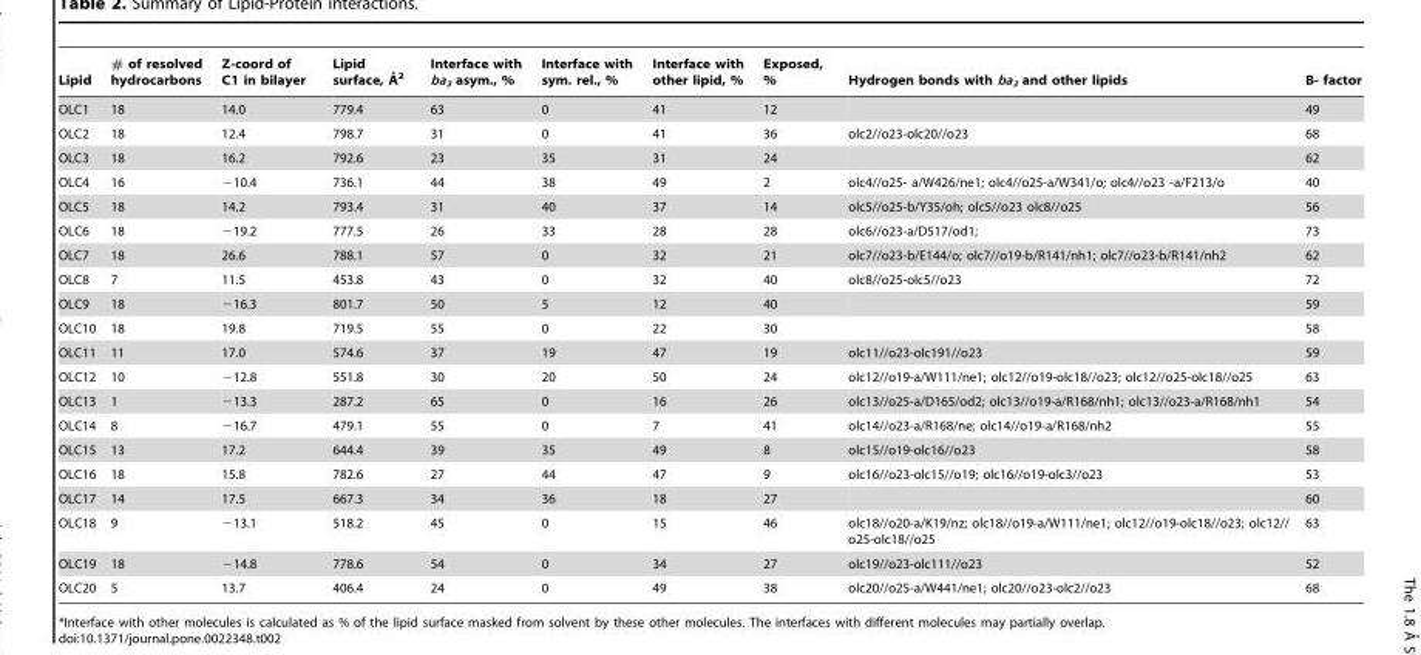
<table><thead><tr><td>Lipid</td><td># of resolved hydrocarbons</td><td>Z-coord of C1 in bilayer</td><td>Lipid surface, A˚ 2</td><td>Interface with ba<sub>3</sub> asym., %</td><td>Interface with sym. rel., %</td><td>Interface with other lipid, %</td><td>Exposed, %</td><td>Hydrogen bonds with ba<sub>3</sub> and other lipids</td><td>B- factor</td></tr></thead><tbody><tr><td>OLC1</td><td>18</td><td>14.0</td><td>779.4</td><td>63</td><td>0</td><td>41</td><td>12</td><td></td><td>49</td></tr><tr><td>OLC2</td><td>18</td><td>12.4</td><td>798.7</td><td>31</td><td>0</td><td>41</td><td>36</td><td>olc2//o23-olc20//o23</td><td>68</td></tr><tr><td>OLC3</td><td>18</td><td>16.2</td><td>792.6</td><td>23</td><td>35</td><td>31</td><td>24</td><td></td><td>62</td></tr><tr><td>OLC4</td><td>16</td><td>−10.4</td><td>736.1</td><td>44</td><td>38</td><td>49</td><td>2</td><td>olc4//o25- a/W426/ne1; olc4//o25-a/W341/o; olc4//o23 -a/F213/o</td><td>40</td></tr><tr><td>OLC5</td><td>18</td><td>14.2</td><td>793.4</td><td>31</td><td>40</td><td>37</td><td>14</td><td>olc5//o25-b/Y35/oh; olc5//o23 olc8//o25</td><td>56</td></tr><tr><td>OLC6</td><td>18</td><td>−19.2</td><td>777.5</td><td>26</td><td>33</td><td>28</td><td>28</td><td>olc6//o23-a/D517/od1;</td><td>73</td></tr><tr><td>OLC7</td><td>18</td><td>26.6</td><td>788.1</td><td>57</td><td>0</td><td>32</td><td>21</td><td>olc7//o23-b/E144/o; olc7//o19-b/R141/nh1; olc7//o23-b/R141/nh2</td><td>62</td></tr><tr><td>OLC8</td><td>7</td><td>11.5</td><td>453.8</td><td>43</td><td>0</td><td>32</td><td>40</td><td>olc8//o25-olc5//o23</td><td>72</td></tr><tr><td>OLC9</td><td>18</td><td>−16.3</td><td>801.7</td><td>50</td><td>5</td><td>12</td><td>40</td><td></td><td>59</td></tr><tr><td>OLC10</td><td>18</td><td>19.8</td><td>719.5</td><td>55</td><td>0</td><td>22</td><td>30</td><td></td><td>58</td></tr><tr><td>OLC11</td><td>11</td><td>17.0</td><td>574.6</td><td>37</td><td>19</td><td>47</td><td>19</td><td>olc11//o23-olc191//o23</td><td>59</td></tr><tr><td>OLC12</td><td>10</td><td>−12.8</td><td>551.8</td><td>30</td><td>20</td><td>50</td><td>24</td><td>olc12//o19-a/W111/ne1; olc12//o19-olc18//o23; olc12//o25-olc18//o25</td><td>63</td></tr><tr><td>OLC13</td><td>1</td><td>−13.3</td><td>287.2</td><td>65</td><td>0</td><td>16</td><td>26</td><td>olc13//o25-a/D165/od2; olc13//o19-a/R168/nh1; olc13//o23-a/R168/nh1</td><td>54</td></tr><tr><td>OLC14</td><td>8</td><td>−16.7</td><td>479.1</td><td>55</td><td>0</td><td>7</td><td>41</td><td>olc14//o23-a/R168/ne; olc14//o19-a/R168/nh2</td><td>55</td></tr><tr><td>OLC15</td><td>13</td><td>17.2</td><td>644.4</td><td>39</td><td>35</td><td>49</td><td>8</td><td>olc15//o19-olc16//o23</td><td>58</td></tr><tr><td>OLC16</td><td>18</td><td>15.8</td><td>782.6</td><td>27</td><td>44</td><td>47</td><td>9</td><td>olc16//o23-olc15//o19; olc16//o19-olc3//o23</td><td>53</td></tr><tr><td>OLC17</td><td>14</td><td>17.5</td><td>667.3</td><td>34</td><td>36</td><td>18</td><td>27</td><td></td><td>60</td></tr><tr><td>OLC18</td><td>9</td><td>−13.1</td><td>518.2</td><td>45</td><td>0</td><td>15</td><td>46</td><td>olc18//o20-a/K19/nz; olc18//o19-a/W111/ne1; olc12//o19-olc18//o23; olc12// o25-olc18//o25</td><td>63</td></tr><tr><td>OLC19</td><td>18</td><td>−14.8</td><td>778.6</td><td>54</td><td>0</td><td>34</td><td>27</td><td>olc19//o23-olc111//o23</td><td>52</td></tr><tr><td>OLC20</td><td>5</td><td>13.7</td><td>406.4</td><td>24</td><td>0</td><td>49</td><td>38</td><td>olc20//o25-a/W441/ne1; olc20//o23-olc2//o23</td><td>68</td></tr></tbody></table>